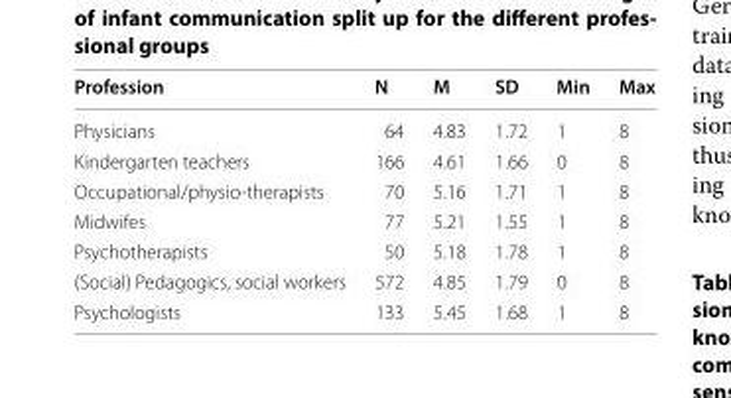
<table><thead><tr><td>Profession</td><td>N</td><td>M</td><td>SD</td><td>Min</td><td>Max</td></tr></thead><tbody><tr><td>Physicians</td><td>64</td><td>4.83</td><td>1.72</td><td>1</td><td>8</td></tr><tr><td>Kindergarten teachers</td><td>166</td><td>4.61</td><td>1.66</td><td>0</td><td>8</td></tr><tr><td>Occupational/physio-therapists</td><td>70</td><td>5.16</td><td>1.71</td><td>1</td><td>8</td></tr><tr><td>Midwifes</td><td>77</td><td>5.21</td><td>1.55</td><td>1</td><td>8</td></tr><tr><td>Psychotherapists</td><td>50</td><td>5.18</td><td>1.78</td><td>1</td><td>8</td></tr><tr><td>(Social) Pedagogics, social workers</td><td>572</td><td>4.85</td><td>1.79</td><td>0</td><td>8</td></tr><tr><td>Psychologists</td><td>133</td><td>5.45</td><td>1.68</td><td>1</td><td>8</td></tr></tbody></table>